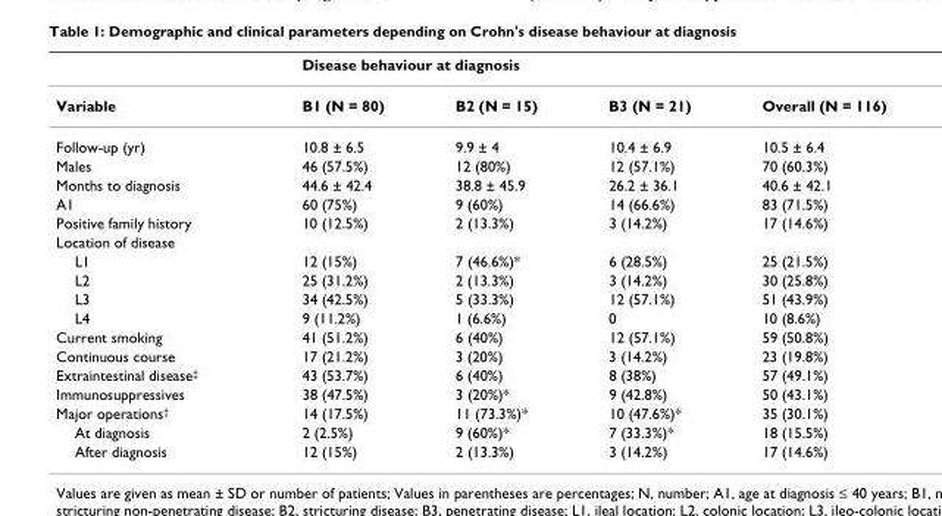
<table><thead><tr><td rowspan="2">Variable</td><td colspan="4">Disease behaviour at diagnosis</td></tr><tr><td>B1 (N = 80)</td><td>B2 (N = 15)</td><td>B3 (N = 21)</td><td>Overall (N = 116)</td></tr></thead><tbody><tr><td>Follow-up (yr)</td><td>10.8 ± 6.5</td><td>9.9 ± 4</td><td>10.4 ± 6.9</td><td>10.5 ± 6.4</td></tr><tr><td>Males</td><td>46 (57.5%)</td><td>12 (80%)</td><td>12 (57.1%)</td><td>70 (60.3%)</td></tr><tr><td>Months to diagnosis</td><td>44.6 ± 42.4</td><td>38.8 ± 45.9</td><td>26.2 ± 36.1</td><td>40.6 ± 42.1</td></tr><tr><td>A1</td><td>60 (75%)</td><td>9 (60%)</td><td>14 (66.6%)</td><td>83 (71.5%)</td></tr><tr><td>Positive family history</td><td>10 (12.5%)</td><td>2 (13.3%)</td><td>3 (14.2%)</td><td>17 (14.6%)</td></tr><tr><td colspan="5">Location of disease</td></tr><tr><td>L1</td><td>12 (15%)</td><td>7 (46.6%)*</td><td>6 (28.5%)</td><td>25 (21.5%)</td></tr><tr><td>L2</td><td>25 (31.2%)</td><td>2 (13.3%)</td><td>3 (14.2%)</td><td>30 (25.8%)</td></tr><tr><td>L3</td><td>34 (42.5%)</td><td>5 (33.3%)</td><td>12 (57.1%)</td><td>51 (43.9%)</td></tr><tr><td>L4</td><td>9 (11.2%)</td><td>1 (6.6%)</td><td>0</td><td>10 (8.6%)</td></tr><tr><td>Current smoking</td><td>41 (51.2%)</td><td>6 (40%)</td><td>12 (57.1%)</td><td>59 (50.8%)</td></tr><tr><td>Continuous course</td><td>17 (21.2%)</td><td>3 (20%)</td><td>3 (14.2%)</td><td>23 (19.8%)</td></tr><tr><td>Extraintestinal disease‡</td><td>43 (53.7%)</td><td>6 (40%)</td><td>8 (38%)</td><td>57 (49.1%)</td></tr><tr><td>Immunosuppressives</td><td>38 (47.5%)</td><td>3 (20%)*</td><td>9 (42.8%)</td><td>50 (43.1%)</td></tr><tr><td>Major operations†</td><td>14 (17.5%)</td><td>11 (73.3%)*</td><td>10 (47.6%)*</td><td>35 (30.1%)</td></tr><tr><td>At diagnosis</td><td>2 (2.5%)</td><td>9 (60%)*</td><td>7 (33.3%)*</td><td>18 (15.5%)</td></tr><tr><td>After diagnosis</td><td>12 (15%)</td><td>2 (13.3%)</td><td>3 (14.2%)</td><td>17 (14.6%)</td></tr></tbody></table>